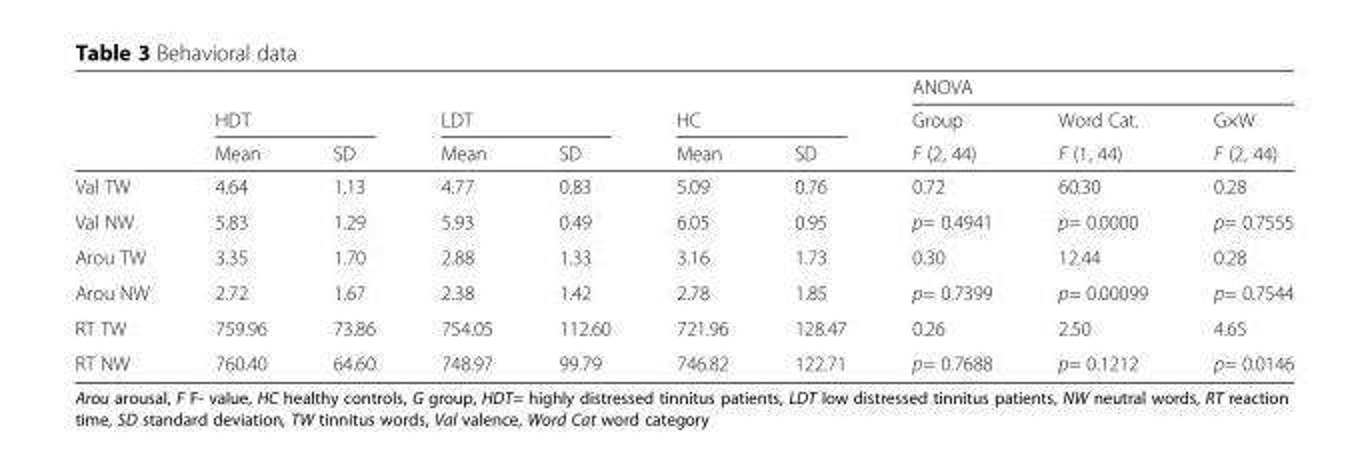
<table><thead><tr><td rowspan="3"></td><td></td><td></td><td></td><td></td><td></td><td></td><td colspan="3">ANOVA</td></tr><tr><td colspan="2">HDT</td><td colspan="2">LDT</td><td colspan="2">HC</td><td rowspan="2">Group F (2, 44)</td><td rowspan="2">Word Cat. F (1, 44)</td><td rowspan="2">G×W F (2, 44)</td></tr><tr><td>Mean</td><td>SD</td><td>Mean</td><td>SD</td><td>Mean</td><td>SD</td></tr></thead><tbody><tr><td>Val TW</td><td>4.64</td><td>1.13</td><td>4.77</td><td>0.83</td><td>5.09</td><td>0.76</td><td>0.72</td><td>60.30</td><td>0.28</td></tr><tr><td>Val NW</td><td>5.83</td><td>1.29</td><td>5.93</td><td>0.49</td><td>6.05</td><td>0.95</td><td>p= 0.4941</td><td>p= 0.0000</td><td>p= 0.7555</td></tr><tr><td>Arou TW</td><td>3.35</td><td>1.70</td><td>2.88</td><td>1.33</td><td>3.16</td><td>1.73</td><td>0.30</td><td>12.44</td><td>0.28</td></tr><tr><td>Arou NW</td><td>2.72</td><td>1.67</td><td>2.38</td><td>1.42</td><td>2.78</td><td>1.85</td><td>p= 0.7399</td><td>p= 0.00099</td><td>p= 0.7544</td></tr><tr><td>RT TW</td><td>759.96</td><td>73.86</td><td>754.05</td><td>112.60</td><td>721.96</td><td>128.47</td><td>0.26</td><td>2.50</td><td>4.65</td></tr><tr><td>RT NW</td><td>760.40</td><td>64.60</td><td>748.97</td><td>99.79</td><td>746.82</td><td>122.71</td><td>p= 0.7688</td><td>p= 0.1212</td><td>p= 0.0146</td></tr></tbody></table>